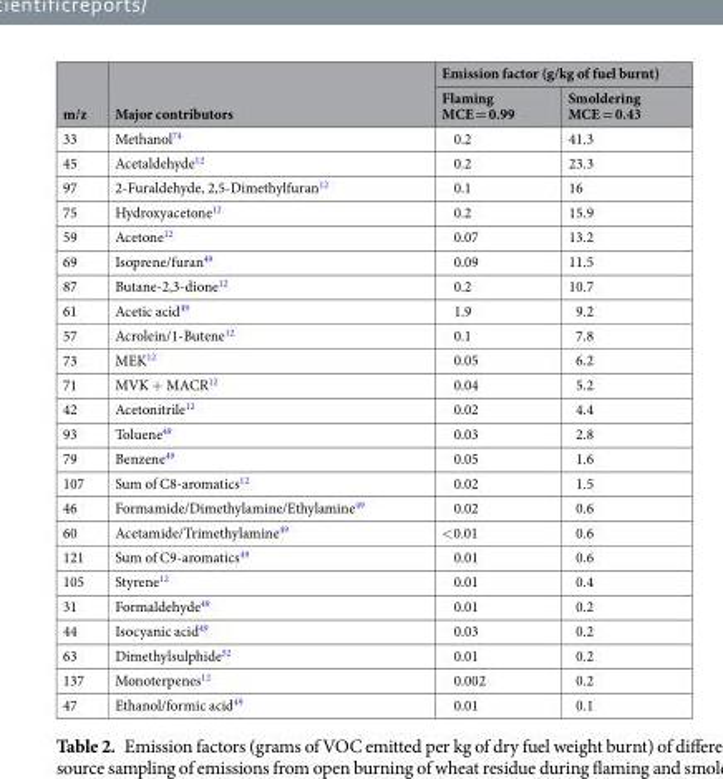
<table><thead><tr><td rowspan="2">m/z</td><td rowspan="2">Major contributors</td><td colspan="2">Emission factor (g/kg of fuel burnt)</td></tr><tr><td>Flaming MCE = 0.99</td><td>Smoldering MCE = 0.43</td></tr></thead><tbody><tr><td>33</td><td>Methanol<sup>74</sup></td><td>0.2</td><td>41.3</td></tr><tr><td>45</td><td>Acetaldehyde<sup>12</sup></td><td>0.2</td><td>23.3</td></tr><tr><td>97</td><td>2-Furaldehyde, 2,5-Dimethylfuran<sup>12</sup></td><td>0.1</td><td>16</td></tr><tr><td>75</td><td>Hydroxyacetone<sup>12</sup></td><td>0.2</td><td>15.9</td></tr><tr><td>59</td><td>Acetone<sup>12</sup></td><td>0.07</td><td>13.2</td></tr><tr><td>69</td><td>Isoprene/furan<sup>49</sup></td><td>0.09</td><td>11.5</td></tr><tr><td>87</td><td>Butane-2,3-dione<sup>12</sup></td><td>0.2</td><td>10.7</td></tr><tr><td>61</td><td>Acetic acid<sup>49</sup></td><td>1.9</td><td>9.2</td></tr><tr><td>57</td><td>Acrolein/1-Butene<sup>12</sup></td><td>0.1</td><td>7.8</td></tr><tr><td>73</td><td>MEK<sup>12</sup></td><td>0.05</td><td>6.2</td></tr><tr><td>71</td><td>MVK + MACR<sup>12</sup></td><td>0.04</td><td>5.2</td></tr><tr><td>42</td><td>Acetonitrile<sup>12</sup></td><td>0.02</td><td>4.4</td></tr><tr><td>93</td><td>Toluene<sup>49</sup></td><td>0.03</td><td>2.8</td></tr><tr><td>79</td><td>Benzene<sup>49</sup></td><td>0.05</td><td>1.6</td></tr><tr><td>107</td><td>Sum of C8-aromatics<sup>12</sup></td><td>0.02</td><td>1.5</td></tr><tr><td>46</td><td>Formamide/Dimethylamine/Ethylamine<sup>49</sup></td><td>0.02</td><td>0.6</td></tr><tr><td>60</td><td>Acetamide/Trimethylamine<sup>49</sup></td><td>&lt;0.01</td><td>0.6</td></tr><tr><td>121</td><td>Sum of C9-aromatics<sup>49</sup></td><td>0.01</td><td>0.6</td></tr><tr><td>105</td><td>Styrene<sup>12</sup></td><td>0.01</td><td>0.4</td></tr><tr><td>31</td><td>Formaldehyde<sup>49</sup></td><td>0.01</td><td>0.2</td></tr><tr><td>44</td><td>Isocyanic acid<sup>49</sup></td><td>0.03</td><td>0.2</td></tr><tr><td>63</td><td>Dimethylsulphide<sup>52</sup></td><td>0.01</td><td>0.2</td></tr><tr><td>137</td><td>Monoterpenes<sup>12</sup></td><td>0.002</td><td>0.2</td></tr><tr><td>47</td><td>Ethanol/formic acid<sup>49</sup></td><td>0.01</td><td>0.1</td></tr></tbody></table>